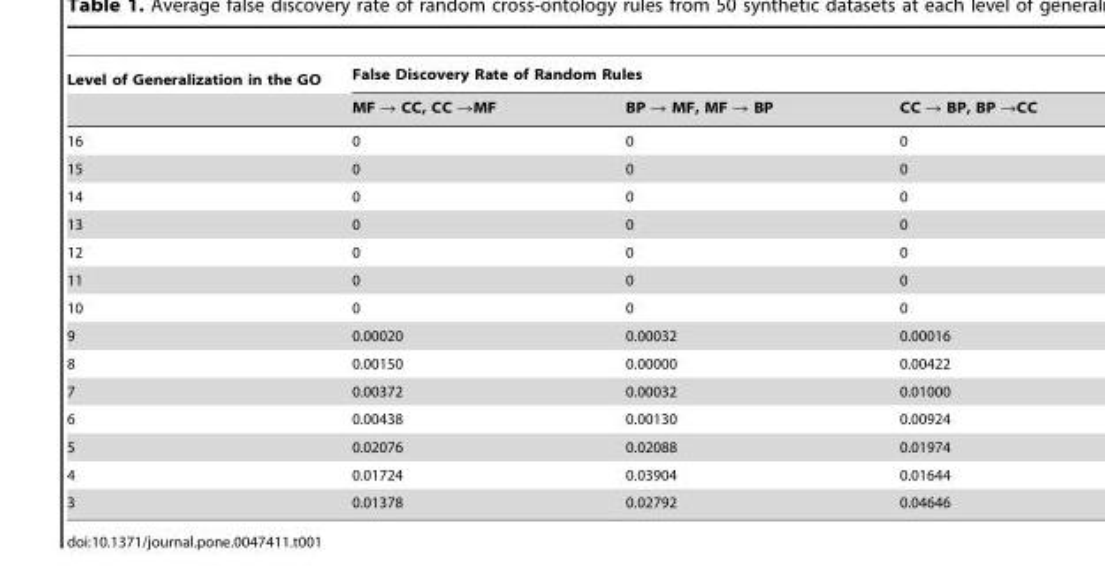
<table><thead><tr><td rowspan="2">Level of Generalization in the GO</td><td colspan="3">False Discovery Rate of Random Rules</td></tr><tr><td>MF → CC, CC →MF</td><td>BP → MF, MF → BP</td><td>CC → BP, BP →CC</td></tr></thead><tbody><tr><td>16</td><td>0</td><td>0</td><td>0</td></tr><tr><td>15</td><td>0</td><td>0</td><td>0</td></tr><tr><td>14</td><td>0</td><td>0</td><td>0</td></tr><tr><td>13</td><td>0</td><td>0</td><td>0</td></tr><tr><td>12</td><td>0</td><td>0</td><td>0</td></tr><tr><td>11</td><td>0</td><td>0</td><td>0</td></tr><tr><td>10</td><td>0</td><td>0</td><td>0</td></tr><tr><td>9</td><td>0.00020</td><td>0.00032</td><td>0.00016</td></tr><tr><td>8</td><td>0.00150</td><td>0.00000</td><td>0.00422</td></tr><tr><td>7</td><td>0.00372</td><td>0.00032</td><td>0.01000</td></tr><tr><td>6</td><td>0.00438</td><td>0.00130</td><td>0.00924</td></tr><tr><td>5</td><td>0.02076</td><td>0.02088</td><td>0.01974</td></tr><tr><td>4</td><td>0.01724</td><td>0.03904</td><td>0.01644</td></tr><tr><td>3</td><td>0.01378</td><td>0.02792</td><td>0.04646</td></tr></tbody></table>